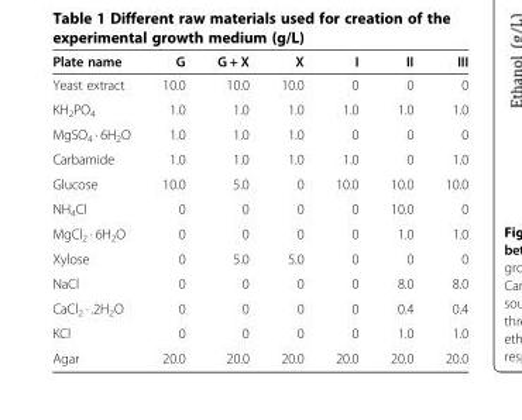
<table><thead><tr><td>Plate name</td><td>G</td><td>G + X</td><td>X</td><td>I</td><td>II</td><td>III</td></tr></thead><tbody><tr><td>Yeast extract</td><td>10.0</td><td>10.0</td><td>10.0</td><td>0</td><td>0</td><td>0</td></tr><tr><td>KH<sub>2</sub>PO<sub>4</sub></td><td>1.0</td><td>1.0</td><td>1.0</td><td>1.0</td><td>1.0</td><td>1.0</td></tr><tr><td>MgSO<sub>4</sub> · 6H<sub>2</sub>O</td><td>1.0</td><td>1.0</td><td>1.0</td><td>0</td><td>0</td><td>0</td></tr><tr><td>Carbamide</td><td>1.0</td><td>1.0</td><td>1.0</td><td>1.0</td><td>0</td><td>1.0</td></tr><tr><td>Glucose</td><td>10.0</td><td>5.0</td><td>0</td><td>10.0</td><td>10.0</td><td>10.0</td></tr><tr><td>NH<sub>4</sub>Cl</td><td>0</td><td>0</td><td>0</td><td>0</td><td>10.0</td><td>0</td></tr><tr><td>MgCl<sub>2</sub> · 6H<sub>2</sub>O</td><td>0</td><td>0</td><td>0</td><td>0</td><td>1.0</td><td>1.0</td></tr><tr><td>Xylose</td><td>0</td><td>5.0</td><td>5.0</td><td>0</td><td>0</td><td>0</td></tr><tr><td>NaCl</td><td>0</td><td>0</td><td>0</td><td>0</td><td>8.0</td><td>8.0</td></tr><tr><td>CaCl<sub>2</sub> · .2H<sub>2</sub>O</td><td>0</td><td>0</td><td>0</td><td>0</td><td>0.4</td><td>0.4</td></tr><tr><td>KCl</td><td>0</td><td>0</td><td>0</td><td>0</td><td>1.0</td><td>1.0</td></tr><tr><td>Agar</td><td>20.0</td><td>20.0</td><td>20.0</td><td>20.0</td><td>20.0</td><td>20.0</td></tr></tbody></table>